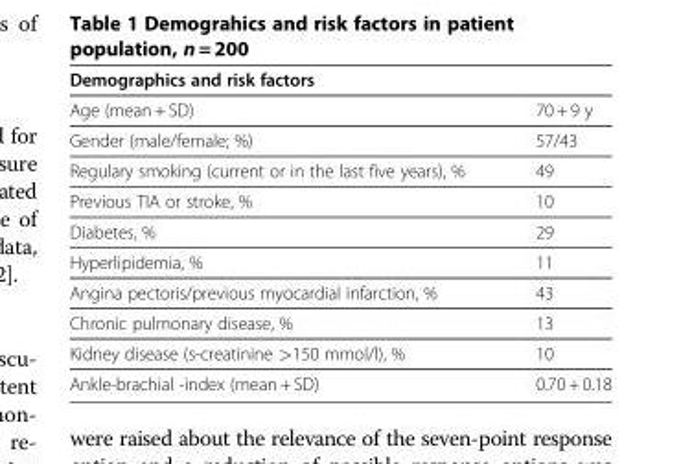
<table><thead><tr><td colspan="2">Demographics and risk factors</td></tr><tr><td>Age (mean + SD)</td><td>70 + 9 y</td></tr></thead><tbody><tr><td>Gender (male/female; %)</td><td>57/43</td></tr><tr><td>Regulary smoking (current or in the last five years), %</td><td>49</td></tr><tr><td>Previous TIA or stroke, %</td><td>10</td></tr><tr><td>Diabetes, %</td><td>29</td></tr><tr><td>Hyperlipidemia, %</td><td>11</td></tr><tr><td>Angina pectoris/previous myocardial infarction, %</td><td>43</td></tr><tr><td>Chronic pulmonary disease, %</td><td>13</td></tr><tr><td>Kidney disease (s-creatinine &gt;150 mmol/l), %</td><td>10</td></tr><tr><td>Ankle-brachial -index (mean + SD)</td><td>0.70 + 0.18</td></tr></tbody></table>